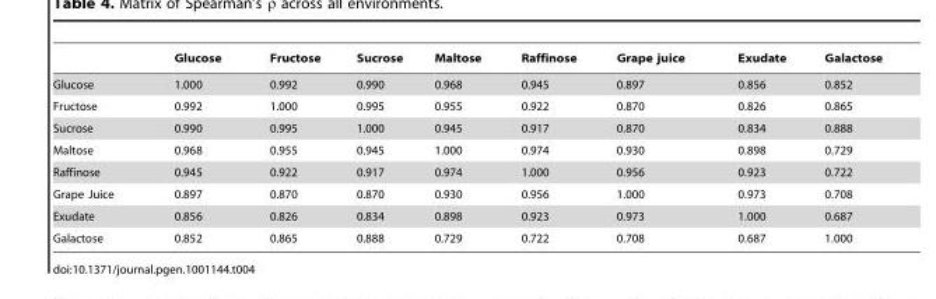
<table><thead><tr><td></td><td>Glucose</td><td>Fructose</td><td>Sucrose</td><td>Maltose</td><td>Raffinose</td><td>Grape juice</td><td>Exudate</td><td>Galactose</td></tr></thead><tbody><tr><td>Glucose</td><td>1.000</td><td>0.992</td><td>0.990</td><td>0.968</td><td>0.945</td><td>0.897</td><td>0.856</td><td>0.852</td></tr><tr><td>Fructose</td><td>0.992</td><td>1.000</td><td>0.995</td><td>0.955</td><td>0.922</td><td>0.870</td><td>0.826</td><td>0.865</td></tr><tr><td>Sucrose</td><td>0.990</td><td>0.995</td><td>1.000</td><td>0.945</td><td>0.917</td><td>0.870</td><td>0.834</td><td>0.888</td></tr><tr><td>Maltose</td><td>0.968</td><td>0.955</td><td>0.945</td><td>1.000</td><td>0.974</td><td>0.930</td><td>0.898</td><td>0.729</td></tr><tr><td>Raffinose</td><td>0.945</td><td>0.922</td><td>0.917</td><td>0.974</td><td>1.000</td><td>0.956</td><td>0.923</td><td>0.722</td></tr><tr><td>Grape Juice</td><td>0.897</td><td>0.870</td><td>0.870</td><td>0.930</td><td>0.956</td><td>1.000</td><td>0.973</td><td>0.708</td></tr><tr><td>Exudate</td><td>0.856</td><td>0.826</td><td>0.834</td><td>0.898</td><td>0.923</td><td>0.973</td><td>1.000</td><td>0.687</td></tr><tr><td>Galactose</td><td>0.852</td><td>0.865</td><td>0.888</td><td>0.729</td><td>0.722</td><td>0.708</td><td>0.687</td><td>1.000</td></tr></tbody></table>